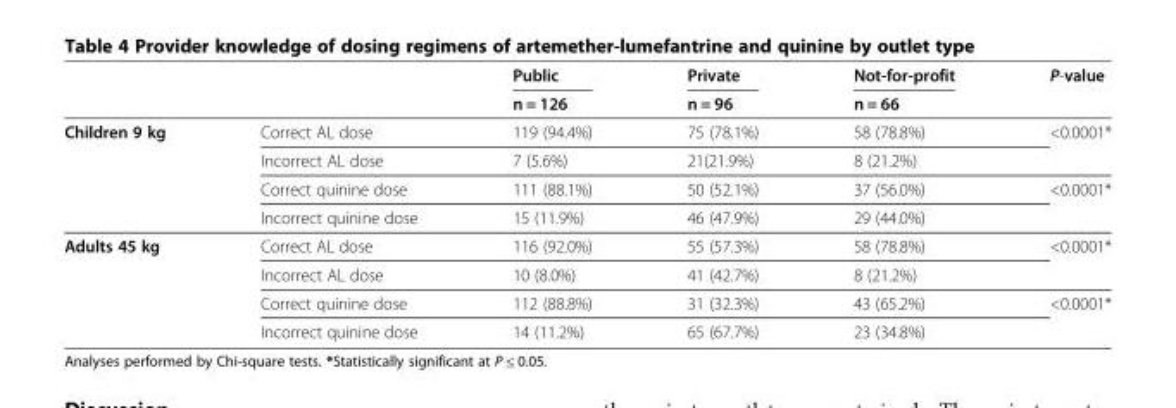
<table><thead><tr><td rowspan="2"></td><td rowspan="2"></td><td rowspan="2">Public n = 126</td><td rowspan="2">Private n = 96</td><td rowspan="2">Not-for-profit n = 66</td><td rowspan="2">P-value</td></tr><tr></tr></thead><tbody><tr><td rowspan="4">Children 9 kg</td><td>Correct AL dose</td><td>119 (94.4%)</td><td>75 (78.1%)</td><td>58 (78.8%)</td><td rowspan="2">&lt;0.0001*</td></tr><tr><td>Incorrect AL dose</td><td>7 (5.6%)</td><td>21(21.9%)</td><td>8 (21.2%)</td></tr><tr><td>Correct quinine dose</td><td>111 (88.1%)</td><td>50 (52.1%)</td><td>37 (56.0%)</td><td rowspan="2">&lt;0.0001*</td></tr><tr><td>Incorrect quinine dose</td><td>15 (11.9%)</td><td>46 (47.9%)</td><td>29 (44.0%)</td></tr><tr><td rowspan="4">Adults 45 kg</td><td>Correct AL dose</td><td>116 (92.0%)</td><td>55 (57.3%)</td><td>58 (78.8%)</td><td>&lt;0.0001*</td></tr><tr><td>Incorrect AL dose</td><td>10 (8.0%)</td><td>41 (42.7%)</td><td>8 (21.2%)</td><td></td></tr><tr><td>Correct quinine dose</td><td>112 (88.8%)</td><td>31 (32.3%)</td><td>43 (65.2%)</td><td rowspan="2">&lt;0.0001*</td></tr><tr><td>Incorrect quinine dose</td><td>14 (11.2%)</td><td>65 (67.7%)</td><td>23 (34.8%)</td></tr></tbody></table>